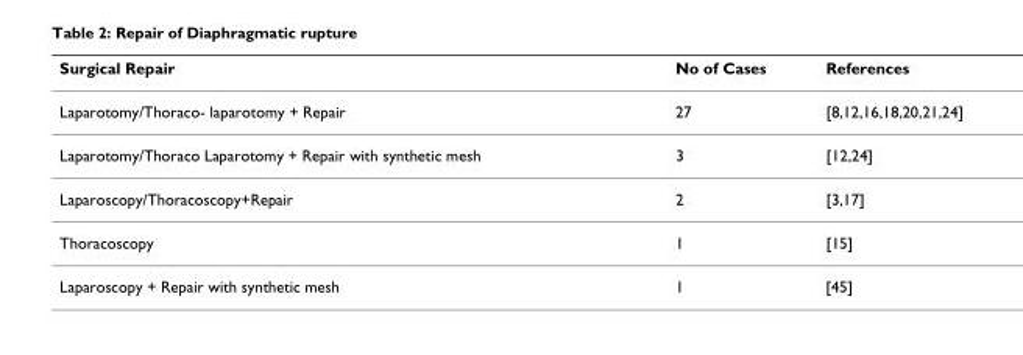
<table><thead><tr><td>Surgical Repair</td><td>No of Cases</td><td>References</td></tr></thead><tbody><tr><td>Laparotomy/Thoraco- laparotomy + Repair</td><td>27</td><td>[8,12,16,18,20,21,24]</td></tr><tr><td>Laparotomy/Thoraco Laparotomy + Repair with synthetic mesh</td><td>3</td><td>[12,24]</td></tr><tr><td>Laparoscopy/Thoracoscopy+Repair</td><td>2</td><td>[3,17]</td></tr><tr><td>Thoracoscopy</td><td>1</td><td>[15]</td></tr><tr><td>Laparoscopy + Repair with synthetic mesh</td><td>1</td><td>[45]</td></tr></tbody></table>